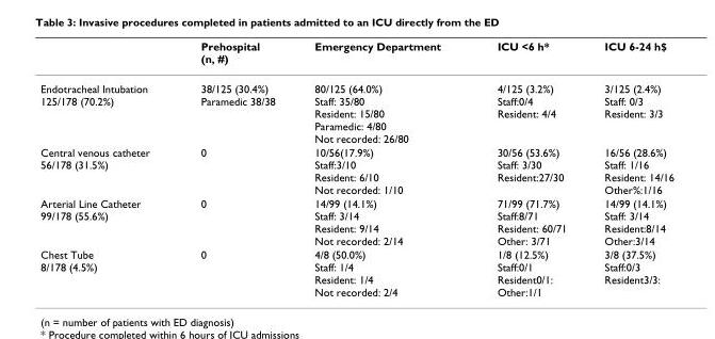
<table><thead><tr><td></td><td>Prehospital (n, #)</td><td>Emergency Department</td><td>ICU &lt;6 h*</td><td>ICU 6-24 h$</td></tr></thead><tbody><tr><td>Endotracheal Intubation 125/178 (70.2%)</td><td>38/125 (30.4%) Paramedic 38/38</td><td>80/125 (64.0%) Staff: 35/80 Resident: 15/80 Paramedic: 4/80 Not recorded: 26/80</td><td>4/125 (3.2%) Staff:0/4 Resident: 4/4</td><td>3/125 (2.4%) Staff: 0/3 Resident: 3/3</td></tr><tr><td>Central venous catheter 56/178 (31.5%)</td><td>0</td><td>10/56(17.9%) Staff:3/10 Resident: 6/10 Not recorded: 1/10</td><td>30/56 (53.6%) Staff: 3/30 Resident:27/30</td><td>16/56 (28.6%) Staff: 1/16 Resident: 14/16 Other%:1/16</td></tr><tr><td>Arterial Line Catheter 99/178 (55.6%)</td><td>0</td><td>14/99 (14.1%) Staff: 3/14 Resident: 9/14 Not recorded: 2/14</td><td>71/99 (71.7%) Staff:8/71 Resident: 60/71 Other: 3/71</td><td>14/99 (14.1%) Staff: 3/14 Resident:8/14 Other:3/14</td></tr><tr><td>Chest Tube 8/178 (4.5%)</td><td>0</td><td>4/8 (50.0%) Staff: 1/4 Resident: 1/4 Not recorded: 2/4</td><td>1/8 (12.5%) Staff:0/1 Resident0/1: Other:1/1</td><td>3/8 (37.5%) Staff:0/3 Resident3/3:</td></tr></tbody></table>